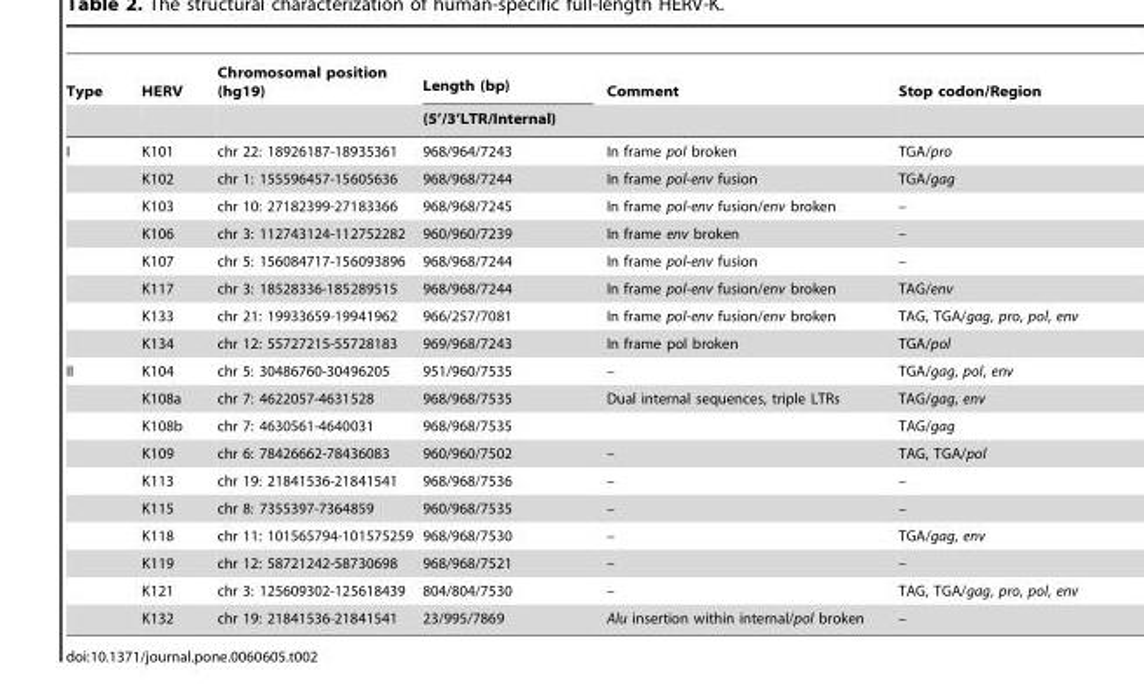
<table><thead><tr><td rowspan="2">Type</td><td rowspan="2">HERV</td><td rowspan="2">Chromosomal position (hg19)</td><td rowspan="2">Length (bp) (5’/3’LTR/Internal)</td><td rowspan="2">Comment</td><td rowspan="2">Stop codon/Region</td></tr><tr></tr></thead><tbody><tr><td rowspan="8">I</td><td>K101</td><td>chr 22: 18926187-18935361</td><td>968/964/7243</td><td>In frame pol broken</td><td>TGA/pro</td></tr><tr><td>K102</td><td>chr 1: 155596457-15605636</td><td>968/968/7244</td><td>In frame pol-env fusion</td><td>TGA/gag</td></tr><tr><td>K103</td><td>chr 10: 27182399-27183366</td><td>968/968/7245</td><td>In frame pol-env fusion/env broken</td><td>–</td></tr><tr><td>K106</td><td>chr 3: 112743124-112752282</td><td>960/960/7239</td><td>In frame env broken</td><td>–</td></tr><tr><td>K107</td><td>chr 5: 156084717-156093896</td><td>968/968/7244</td><td>In frame pol-env fusion</td><td>–</td></tr><tr><td>K117</td><td>chr 3: 18528336-185289515</td><td>968/968/7244</td><td>In frame pol-env fusion/env broken</td><td>TAG/env</td></tr><tr><td>K133</td><td>chr 21: 19933659-19941962</td><td>966/257/7081</td><td>In frame pol-env fusion/env broken</td><td>TAG, TGA/gag, pro, pol, env</td></tr><tr><td>K134</td><td>chr 12: 55727215-55728183</td><td>969/968/7243</td><td>In frame pol broken</td><td>TGA/pol</td></tr><tr><td rowspan="10">II</td><td>K104</td><td>chr 5: 30486760-30496205</td><td>951/960/7535</td><td>–</td><td>TGA/gag, pol, env</td></tr><tr><td>K108a</td><td>chr 7: 4622057-4631528</td><td>968/968/7535</td><td>Dual internal sequences, triple LTRs</td><td>TAG/gag, env</td></tr><tr><td>K108b</td><td>chr 7: 4630561-4640031</td><td>968/968/7535</td><td></td><td>TAG/gag</td></tr><tr><td>K109</td><td>chr 6: 78426662-78436083</td><td>960/960/7502</td><td>–</td><td>TAG, TGA/pol</td></tr><tr><td>K113</td><td>chr 19: 21841536-21841541</td><td>968/968/7536</td><td>–</td><td>–</td></tr><tr><td>K115</td><td>chr 8: 7355397-7364859</td><td>960/968/7535</td><td>–</td><td>–</td></tr><tr><td>K118</td><td>chr 11: 101565794-101575259</td><td>968/968/7530</td><td>–</td><td>TGA/gag, env</td></tr><tr><td>K119</td><td>chr 12: 58721242-58730698</td><td>968/968/7521</td><td>–</td><td>–</td></tr><tr><td>K121</td><td>chr 3: 125609302-125618439</td><td>804/804/7530</td><td>–</td><td>TAG, TGA/gag, pro, pol, env</td></tr><tr><td>K132</td><td>chr 19: 21841536-21841541</td><td>23/995/7869</td><td>Alu insertion within internal/pol broken</td><td>–</td></tr></tbody></table>